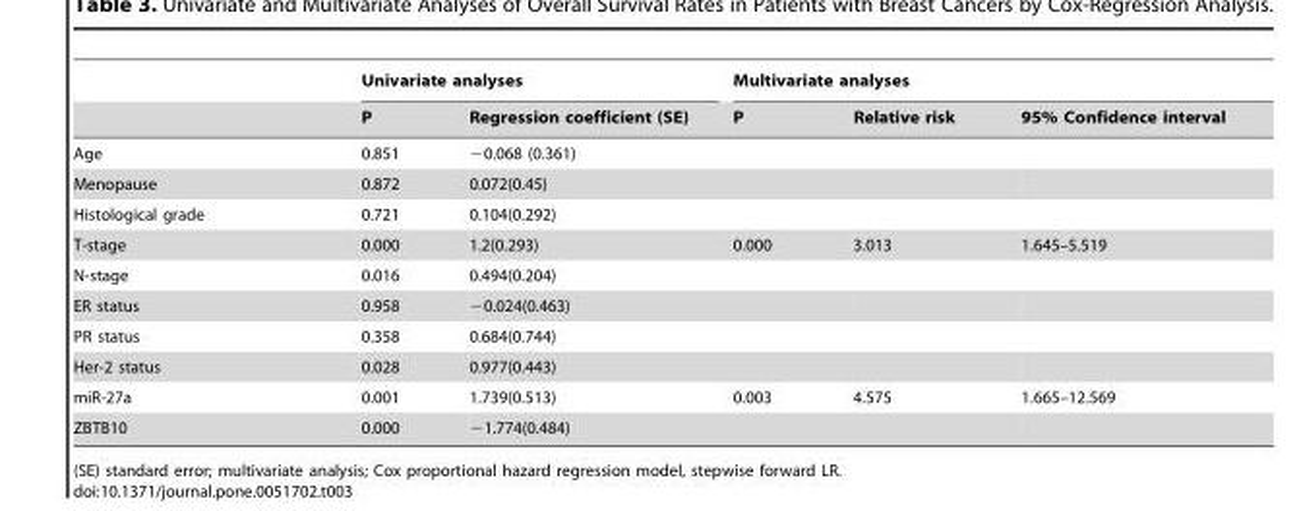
<table><thead><tr><td rowspan="2"></td><td colspan="2">Univariate analyses</td><td colspan="3">Multivariate analyses</td></tr><tr><td>P</td><td>Regression coefficient (SE)</td><td>P</td><td>Relative risk</td><td>95% Confidence interval</td></tr></thead><tbody><tr><td>Age</td><td>0.851</td><td>−0.068 (0.361)</td><td></td><td></td><td></td></tr><tr><td>Menopause</td><td>0.872</td><td>0.072(0.45)</td><td></td><td></td><td></td></tr><tr><td>Histological grade</td><td>0.721</td><td>0.104(0.292)</td><td></td><td></td><td></td></tr><tr><td>T-stage</td><td>0.000</td><td>1.2(0.293)</td><td>0.000</td><td>3.013</td><td>1.645–5.519</td></tr><tr><td>N-stage</td><td>0.016</td><td>0.494(0.204)</td><td></td><td></td><td></td></tr><tr><td>ER status</td><td>0.958</td><td>−0.024(0.463)</td><td></td><td></td><td></td></tr><tr><td>PR status</td><td>0.358</td><td>0.684(0.744)</td><td></td><td></td><td></td></tr><tr><td>Her-2 status</td><td>0.028</td><td>0.977(0.443)</td><td></td><td></td><td></td></tr><tr><td>miR-27a</td><td>0.001</td><td>1.739(0.513)</td><td>0.003</td><td>4.575</td><td>1.665–12.569</td></tr><tr><td>ZBTB10</td><td>0.000</td><td>−1.774(0.484)</td><td></td><td></td><td></td></tr></tbody></table>